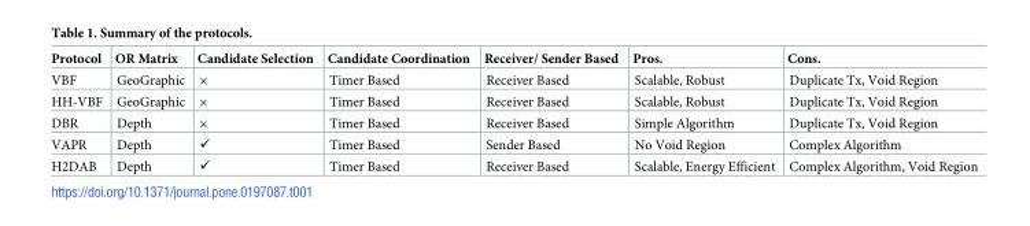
<table><thead><tr><td>Protocol</td><td>OR Matrix</td><td>Candidate Selection</td><td>Candidate Coordination</td><td>Receiver/ Sender Based</td><td>Pros.</td><td>Cons.</td></tr></thead><tbody><tr><td>VBF</td><td>GeoGraphic</td><td>×</td><td>Timer Based</td><td>Receiver Based</td><td>Scalable, Robust</td><td>Duplicate Tx, Void Region</td></tr><tr><td>HH-VBF</td><td>GeoGraphic</td><td>×</td><td>Timer Based</td><td>Receiver Based</td><td>Scalable, Robust</td><td>Duplicate Tx, Void Region</td></tr><tr><td>DBR</td><td>Depth</td><td>×</td><td>Timer Based</td><td>Receiver Based</td><td>Simple Algorithm</td><td>Duplicate Tx, Void Region</td></tr><tr><td>VAPR</td><td>Depth</td><td>✓</td><td>Timer Based</td><td>Sender Based</td><td>No Void Region</td><td>Complex Algorithm</td></tr><tr><td>H2DAB</td><td>Depth</td><td>✓</td><td>Timer Based</td><td>Receiver Based</td><td>Scalable, Energy Efficient</td><td>Complex Algorithm, Void Region</td></tr></tbody></table>